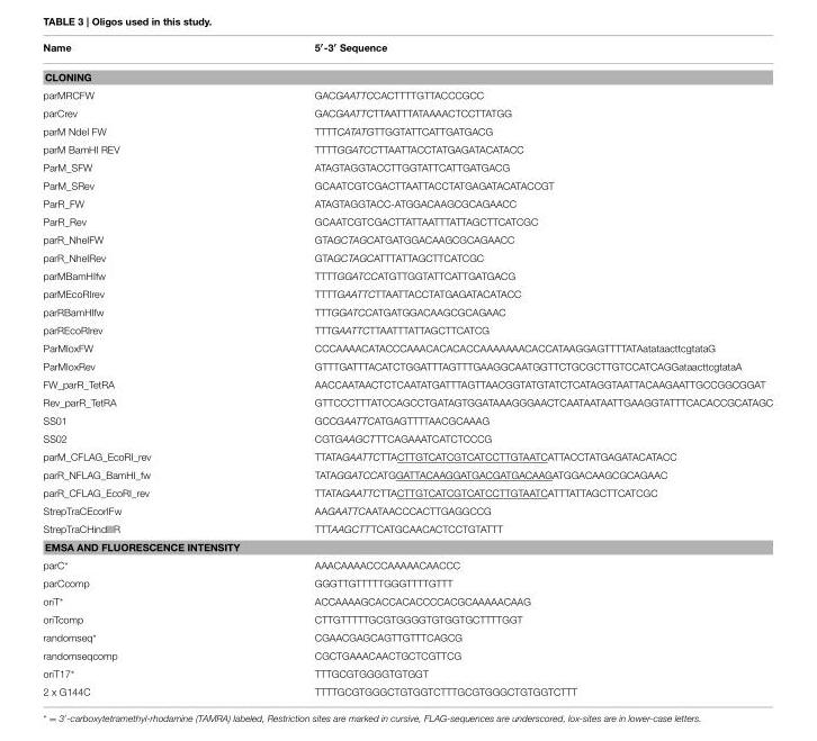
<table><thead><tr><td>Name</td><td>5′-3′ Sequence</td></tr></thead><tbody><tr><td colspan="2">CLONING</td></tr><tr><td>parMRCFW</td><td>GACGAATTCCACTTTTGTTACCCGCC</td></tr><tr><td>parCrev</td><td>GACGAATTCTTAATTTATAAAACTCCTTATGG</td></tr><tr><td>parM NdeI FW</td><td>TTTTCATATGTTGGTATTCATTGATGACG</td></tr><tr><td>parM BamHI REV</td><td>TTTTGGATCCTTAATTACCTATGAGATACATACC</td></tr><tr><td>ParM_SFW</td><td>ATAGTAGGTACCTTGGTATTCATTGATGACG</td></tr><tr><td>ParM_SRev</td><td>GCAATCGTCGACTTAATTACCTATGAGATACATACCGT</td></tr><tr><td>ParR_FW</td><td>ATAGTAGGTACC-ATGGACAAGCGCAGAACC</td></tr><tr><td>ParR_Rev</td><td>GCAATCGTCGACTTATTAATTTATTAGCTTCATCGC</td></tr><tr><td>parR_NheIFW</td><td>GTAGCTAGCATGATGGACAAGCGCAGAACC</td></tr><tr><td>parR_NheIRev</td><td>GTAGCTAGCATTTATTAGCTTCATCGC</td></tr><tr><td>parMBamHIfw</td><td>TTTTGGATCCATGTTGGTATTCATTGATGACG</td></tr><tr><td>parMEcoRIrev</td><td>TTTTGAATTCTTAATTACCTATGAGATACATACC</td></tr><tr><td>parRBamHIfw</td><td>TTTGGATCCATGATGGACAAGCGCAGAAC</td></tr><tr><td>parREcoRIrev</td><td>TTTGAATTCTTAATTTATTAGCTTCATCG</td></tr><tr><td>ParMloxFW</td><td>CCCAAAACATACCCAAACACACACCAAAAAAACACCATAAGGAGTTTTATAatataacttcgtataG</td></tr><tr><td>ParMloxRev</td><td>GTTTGATTTACATCTGGATTTAGTTTGAAGGCAATGGTTCTGCGCTTGTCCATCAGGataacttcgtataA</td></tr><tr><td>FW_parR_TetRA</td><td>AACCAATAACTCTCAATATGATTTAGTTAACGGTATGTATCTCATAGGTAATTACAAGAATTGCCGGCGGAT</td></tr><tr><td>Rev_parR_TetRA</td><td>GTTCCCTTTATCCAGCCTGATAGTGGATAAAGGGAACTCAATAATAATTGAAGGTATTTCACACCGCATAGC</td></tr><tr><td>SS01</td><td>GCCGAATTCATGAGTTTTAACGCAAAG</td></tr><tr><td>SS02</td><td>CGTGAAGCTTTCAGAAATCATCTCCCG</td></tr><tr><td>parM_CFLAG_EcoRI_rev</td><td>TTATAGAATTCTTACTTGTCATCGTCATCCTTGTAATCATTACCTATGAGATACATACC</td></tr><tr><td>parR_NFLAG_BamHI_fw</td><td>TATAGGATCCATGGATTACAAGGATGACGATGACAAGATGGACAAGCGCAGAAC</td></tr><tr><td>parR_CFLAG_EcoRI_rev</td><td>TTATAGAATTCTTACTTGTCATCGTCATCCTTGTAATCATTTATTAGCTTCATCGC</td></tr><tr><td>StrepTraCEcorIFw</td><td>AAGAATTCAATAACCCACTTGAGGCCG</td></tr><tr><td>StrepTraCHindIIIR</td><td>TTTAAGCTTTCATGCAACACTCCTGTATTT</td></tr><tr><td colspan="2">EMSA AND FLUORESCENCE INTENSITY</td></tr><tr><td>parC*</td><td>AAACAAAACCCAAAAACAACCC</td></tr><tr><td>parCcomp</td><td>GGGTTGTTTTTGGGTTTTGTTT</td></tr><tr><td>oriT*</td><td>ACCAAAAGCACCACACCCCACGCAAAAACAAG</td></tr><tr><td>oriTcomp</td><td>CTTGTTTTTGCGTGGGGTGTGGTGCTTTTGGT</td></tr><tr><td>randomseq*</td><td>CGAACGAGCAGTTGTTTCAGCG</td></tr><tr><td>randomseqcomp</td><td>CGCTGAAACAACTGCTCGTTCG</td></tr><tr><td>oriT17*</td><td>TTTGCGTGGGGTGTGGT</td></tr><tr><td>2 x G144C</td><td>TTTTGCGTGGGCTGTGGTCTTTGCGTGGGCTGTGGTCTTT</td></tr></tbody></table>